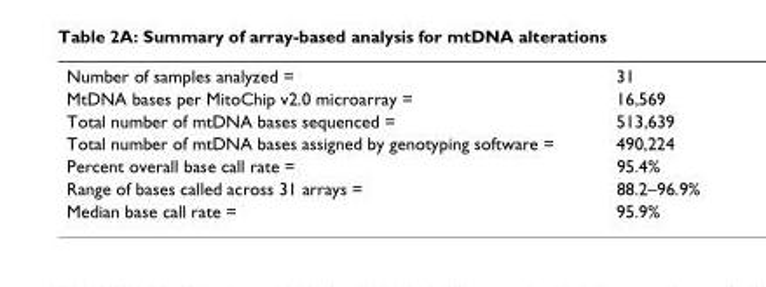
<table><tbody><tr><td>Number of samples analyzed =</td><td>31</td></tr><tr><td>MtDNA bases per MitoChip v2.0 microarray =</td><td>16,569</td></tr><tr><td>Total number of mtDNA bases sequenced =</td><td>513,639</td></tr><tr><td>Total number of mtDNA bases assigned by genotyping software =</td><td>490,224</td></tr><tr><td>Percent overall base call rate =</td><td>95.4%</td></tr><tr><td>Range of bases called across 31 arrays =</td><td>88.2–96.9%</td></tr><tr><td>Median base call rate =</td><td>95.9%</td></tr></tbody></table>